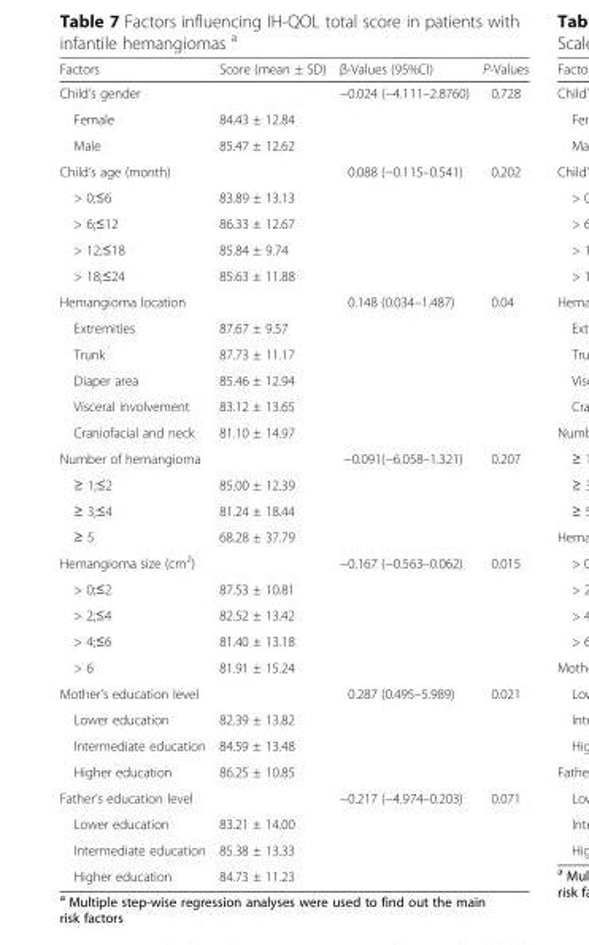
<table><thead><tr><td>Factors</td><td>Score (mean ± SD)</td><td>β-Values (95%CI)</td><td>P-Values</td></tr></thead><tbody><tr><td>Child’s gender</td><td></td><td>−0.024 (−4.111–2.8760)</td><td>0.728</td></tr><tr><td>Female</td><td>84.43 ± 12.84</td><td></td><td></td></tr><tr><td>Male</td><td>85.47 ± 12.62</td><td></td><td></td></tr><tr><td>Child’s age (month)</td><td></td><td>0.088 (−0.115–0.541)</td><td>0.202</td></tr><tr><td>&gt; 0;≤6</td><td>83.89 ± 13.13</td><td></td><td></td></tr><tr><td>&gt; 6;≤12</td><td>86.33 ± 12.67</td><td></td><td></td></tr><tr><td>&gt; 12;≤18</td><td>85.84 ± 9.74</td><td></td><td></td></tr><tr><td>&gt; 18;≤24</td><td>85.63 ± 11.88</td><td></td><td></td></tr><tr><td>Hemangioma location</td><td></td><td>0.148 (0.034–1.487)</td><td>0.04</td></tr><tr><td>Extremities</td><td>87.67 ± 9.57</td><td></td><td></td></tr><tr><td>Trunk</td><td>87.73 ± 11.17</td><td></td><td></td></tr><tr><td>Diaper area</td><td>85.46 ± 12.94</td><td></td><td></td></tr><tr><td>Visceral involvement</td><td>83.12 ± 13.65</td><td></td><td></td></tr><tr><td>Craniofacial and neck</td><td>81.10 ± 14.97</td><td></td><td></td></tr><tr><td>Number of hemangioma</td><td></td><td>−0.091(−6.058–1.321)</td><td>0.207</td></tr><tr><td>≥ 1;≤2</td><td>85.00 ± 12.39</td><td></td><td></td></tr><tr><td>≥ 3;≤4</td><td>81.24 ± 18.44</td><td></td><td></td></tr><tr><td>≥ 5</td><td>68.28 ± 37.79</td><td></td><td></td></tr><tr><td>Hemangioma size (cm<sup>2</sup>)</td><td></td><td>−0.167 (−0.563–0.062)</td><td>0.015</td></tr><tr><td>&gt; 0;≤2</td><td>87.53 ± 10.81</td><td></td><td></td></tr><tr><td>&gt; 2;≤4</td><td>82.52 ± 13.42</td><td></td><td></td></tr><tr><td>&gt; 4;≤6</td><td>81.40 ± 13.18</td><td></td><td></td></tr><tr><td>&gt; 6</td><td>81.91 ± 15.24</td><td></td><td></td></tr><tr><td>Mother’s education level</td><td></td><td>0.287 (0.495–5.989)</td><td>0.021</td></tr><tr><td>Lower education</td><td>82.39 ± 13.82</td><td></td><td></td></tr><tr><td>Intermediate education</td><td>84.59 ± 13.48</td><td></td><td></td></tr><tr><td>Higher education</td><td>86.25 ± 10.85</td><td></td><td></td></tr><tr><td>Father’s education level</td><td></td><td>−0.217 (−4.974–0.203)</td><td>0.071</td></tr><tr><td>Lower education</td><td>83.21 ± 14.00</td><td></td><td></td></tr><tr><td>Intermediate education</td><td>85.38 ± 13.33</td><td></td><td></td></tr><tr><td>Higher education</td><td>84.73 ± 11.23</td><td></td><td></td></tr></tbody></table>